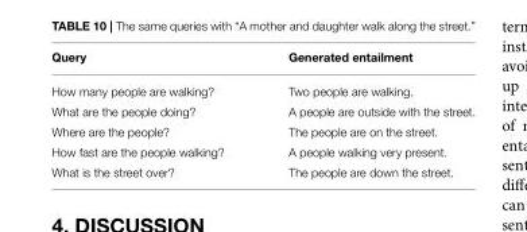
<table><thead><tr><td>Query</td><td>Generated entailment</td></tr></thead><tbody><tr><td>How many people are walking?</td><td>Two people are walking.</td></tr><tr><td>What are the people doing?</td><td>A people are outside with the street.</td></tr><tr><td>Where are the people?</td><td>The people are on the street.</td></tr><tr><td>How fast are the people walking?</td><td>A people walking very present.</td></tr><tr><td>What is the street over?</td><td>The people are down the street.</td></tr></tbody></table>